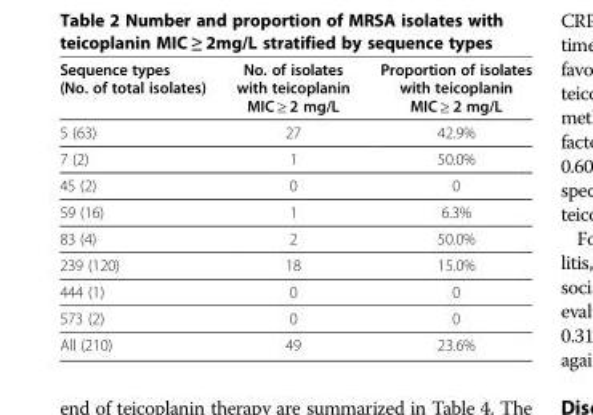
<table><thead><tr><td>Sequence types (No. of total isolates)</td><td>No. of isolates with teicoplanin MIC ≥ 2 mg/L</td><td>Proportion of isolates with teicoplanin MIC ≥ 2 mg/L</td></tr></thead><tbody><tr><td>5 (63)</td><td>27</td><td>42.9%</td></tr><tr><td>7 (2)</td><td>1</td><td>50.0%</td></tr><tr><td>45 (2)</td><td>0</td><td>0</td></tr><tr><td>59 (16)</td><td>1</td><td>6.3%</td></tr><tr><td>83 (4)</td><td>2</td><td>50.0%</td></tr><tr><td>239 (120)</td><td>18</td><td>15.0%</td></tr><tr><td>444 (1)</td><td>0</td><td>0</td></tr><tr><td>573 (2)</td><td>0</td><td>0</td></tr><tr><td>All (210)</td><td>49</td><td>23.6%</td></tr></tbody></table>